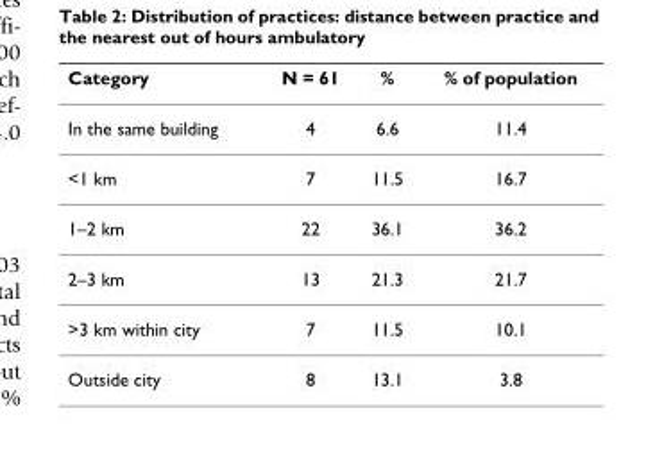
<table><thead><tr><td>Category</td><td>N = 61</td><td>%</td><td>% of population</td></tr></thead><tbody><tr><td>In the same building</td><td>4</td><td>6.6</td><td>11.4</td></tr><tr><td>&lt;1 km</td><td>7</td><td>11.5</td><td>16.7</td></tr><tr><td>1–2 km</td><td>22</td><td>36.1</td><td>36.2</td></tr><tr><td>2–3 km</td><td>13</td><td>21.3</td><td>21.7</td></tr><tr><td>&gt;3 km within city</td><td>7</td><td>11.5</td><td>10.1</td></tr><tr><td>Outside city</td><td>8</td><td>13.1</td><td>3.8</td></tr></tbody></table>